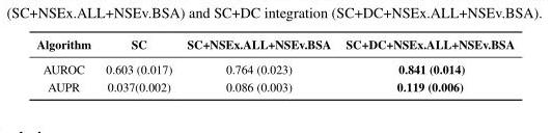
<table><thead><tr><td>Algorithm</td><td>SC</td><td>SC+NSEx.ALL+NSEv.BSA</td><td>SC+DC+NSEx.ALL+NSEv.BSA</td></tr></thead><tbody><tr><td>AUROC</td><td>0.603 (0.017)</td><td>0.764 (0.023)</td><td>0.841 (0.014)</td></tr><tr><td>AUPR</td><td>0.037(0.002)</td><td>0.086 (0.003)</td><td>0.119 (0.006)</td></tr></tbody></table>